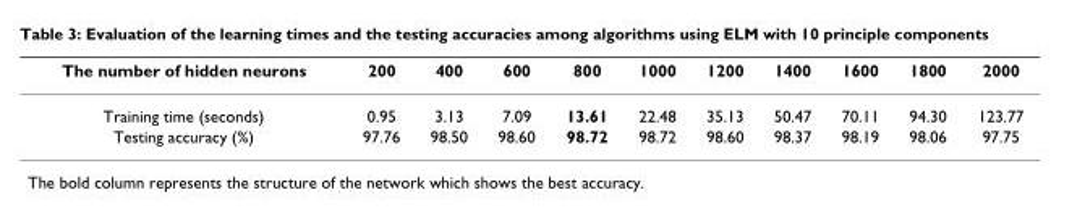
<table><thead><tr><td>The number of hidden neurons</td><td>200</td><td>400</td><td>600</td><td>800</td><td>1000</td><td>1200</td><td>1400</td><td>1600</td><td>1800</td><td>2000</td></tr></thead><tbody><tr><td>Training time (seconds)</td><td>0.95</td><td>3.13</td><td>7.09</td><td>13.61</td><td>22.48</td><td>35.13</td><td>50.47</td><td>70.11</td><td>94.30</td><td>123.77</td></tr><tr><td>Testing accuracy (%)</td><td>97.76</td><td>98.50</td><td>98.60</td><td>98.72</td><td>98.72</td><td>98.60</td><td>98.37</td><td>98.19</td><td>98.06</td><td>97.75</td></tr></tbody></table>